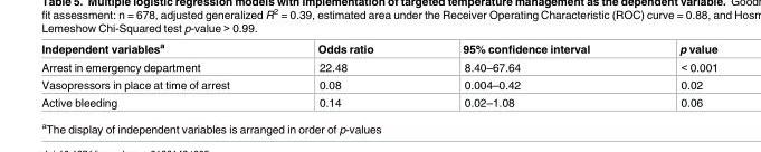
<table><thead><tr><td>Independent variables<sup>a</sup></td><td>Odds ratio</td><td>95% confidence interval</td><td>p value</td></tr></thead><tbody><tr><td>Arrest in emergency department</td><td>22.48</td><td>8.40–67.64</td><td>&lt; 0.001</td></tr><tr><td>Vasopressors in place at time of arrest</td><td>0.08</td><td>0.004–0.42</td><td>0.02</td></tr><tr><td>Active bleeding</td><td>0.14</td><td>0.02–1.08</td><td>0.06</td></tr></tbody></table>